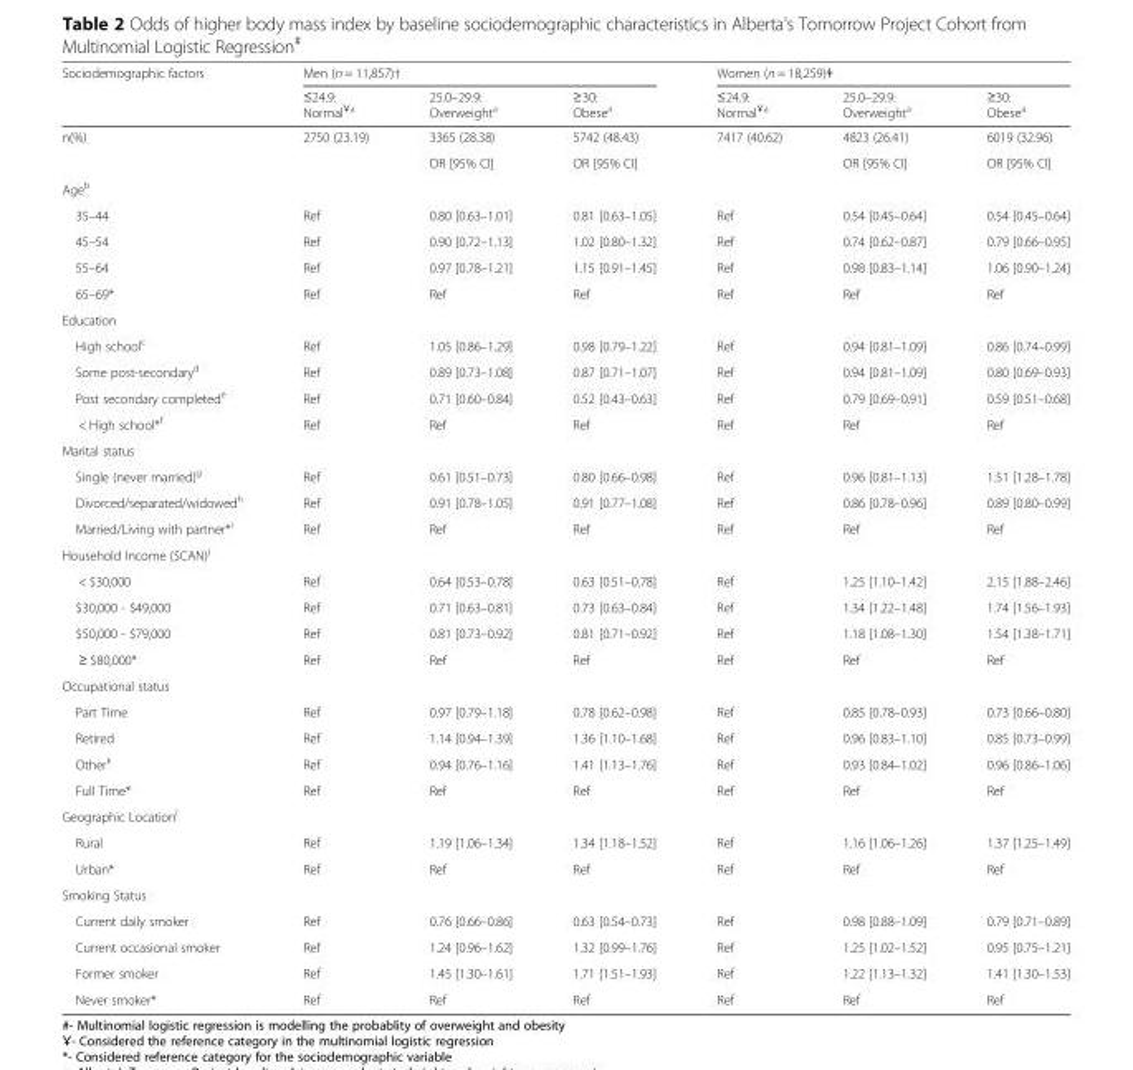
<table><thead><tr><td rowspan="2">Sociodemographic factors</td><td colspan="3">Men (n = 11,857)†</td><td colspan="3">Women (n = 18,259)ǂ</td></tr><tr><td>≤24.9: Normal<sup>Ұa</sup></td><td>25.0–29.9: Overweight<sup>a</sup></td><td>≥30: Obese<sup>a</sup></td><td>≤24.9: Normal<sup>Ұa</sup></td><td>25.0–29.9: Overweight<sup>a</sup></td><td>≥30: Obese<sup>a</sup></td></tr></thead><tbody><tr><td rowspan="2">n(%)</td><td>2750 (23.19)</td><td>3365 (28.38)</td><td>5742 (48.43)</td><td>7417 (40.62)</td><td>4823 (26.41)</td><td>6019 (32.96)</td></tr><tr><td></td><td>OR [95% CI]</td><td>OR [95% CI]</td><td></td><td>OR [95% CI]</td><td>OR [95% CI]</td></tr><tr><td colspan="7">Age<sup>b</sup></td></tr><tr><td>35–44</td><td>Ref</td><td>0.80 [0.63–1.01]</td><td>0.81 [0.63–1.05]</td><td>Ref</td><td>0.54 [0.45–0.64]</td><td>0.54 [0.45–0.64]</td></tr><tr><td>45–54</td><td>Ref</td><td>0.90 [0.72–1.13]</td><td>1.02 [0.80–1.32]</td><td>Ref</td><td>0.74 [0.62–0.87]</td><td>0.79 [0.66–0.95]</td></tr><tr><td>55–64</td><td>Ref</td><td>0.97 [0.78–1.21]</td><td>1.15 [0.91–1.45]</td><td>Ref</td><td>0.98 [0.83–1.14]</td><td>1.06 [0.90–1.24]</td></tr><tr><td>65–69*</td><td>Ref</td><td>Ref</td><td>Ref</td><td>Ref</td><td>Ref</td><td>Ref</td></tr><tr><td colspan="7">Education</td></tr><tr><td>High school<sup>c</sup></td><td>Ref</td><td>1.05 [0.86–1.29]</td><td>0.98 [0.79–1.22]</td><td>Ref</td><td>0.94 [0.81–1.09]</td><td>0.86 [0.74–0.99]</td></tr><tr><td>Some post-secondary<sup>d</sup></td><td>Ref</td><td>0.89 [0.73–1.08]</td><td>0.87 [0.71–1.07]</td><td>Ref</td><td>0.94 [0.81–1.09]</td><td>0.80 [0.69–0.93]</td></tr><tr><td>Post secondary completed<sup>e</sup></td><td>Ref</td><td>0.71 [0.60–0.84]</td><td>0.52 [0.43–0.63]</td><td>Ref</td><td>0.79 [0.69–0.91]</td><td>0.59 [0.51–0.68]</td></tr><tr><td>&lt; High school*<sup>f</sup></td><td>Ref</td><td>Ref</td><td>Ref</td><td>Ref</td><td>Ref</td><td>Ref</td></tr><tr><td colspan="7">Marital status</td></tr><tr><td>Single (never married)<sup>g</sup></td><td>Ref</td><td>0.61 [0.51–0.73]</td><td>0.80 [0.66–0.98]</td><td>Ref</td><td>0.96 [0.81–1.13]</td><td>1.51 [1.28–1.78]</td></tr><tr><td>Divorced/separated/widowed<sup>h</sup></td><td>Ref</td><td>0.91 [0.78–1.05]</td><td>0.91 [0.77–1.08]</td><td>Ref</td><td>0.86 [0.78–0.96]</td><td>0.89 [0.80–0.99]</td></tr><tr><td>Married/Living with partner*<sup>i</sup></td><td>Ref</td><td>Ref</td><td>Ref</td><td>Ref</td><td>Ref</td><td>Ref</td></tr><tr><td colspan="7">Household Income ($CAN)<sup>j</sup></td></tr><tr><td>&lt; $30,000</td><td>Ref</td><td>0.64 [0.53–0.78]</td><td>0.63 [0.51–0.78]</td><td>Ref</td><td>1.25 [1.10–1.42]</td><td>2.15 [1.88–2.46]</td></tr><tr><td>$30,000 - $49,000</td><td>Ref</td><td>0.71 [0.63–0.81]</td><td>0.73 [0.63–0.84]</td><td>Ref</td><td>1.34 [1.22–1.48]</td><td>1.74 [1.56–1.93]</td></tr><tr><td>$50,000 - $79,000</td><td>Ref</td><td>0.81 [0.73–0.92]</td><td>0.81 [0.71–0.92]</td><td>Ref</td><td>1.18 [1.08–1.30]</td><td>1.54 [1.38–1.71]</td></tr><tr><td>≥ $80,000*</td><td>Ref</td><td>Ref</td><td>Ref</td><td>Ref</td><td>Ref</td><td>Ref</td></tr><tr><td colspan="7">Occupational status</td></tr><tr><td>Part Time</td><td>Ref</td><td>0.97 [0.79–1.18]</td><td>0.78 [0.62–0.98]</td><td>Ref</td><td>0.85 [0.78–0.93]</td><td>0.73 [0.66–0.80]</td></tr><tr><td>Retired</td><td>Ref</td><td>1.14 [0.94–1.39]</td><td>1.36 [1.10–1.68]</td><td>Ref</td><td>0.96 [0.83–1.10]</td><td>0.85 [0.73–0.99]</td></tr><tr><td>Other<sup>k</sup></td><td>Ref</td><td>0.94 [0.76–1.16]</td><td>1.41 [1.13–1.76]</td><td>Ref</td><td>0.93 [0.84–1.02]</td><td>0.96 [0.86–1.06]</td></tr><tr><td>Full Time*</td><td>Ref</td><td>Ref</td><td>Ref</td><td>Ref</td><td>Ref</td><td>Ref</td></tr><tr><td colspan="7">Geographic Location<sup>l</sup></td></tr><tr><td>Rural</td><td>Ref</td><td>1.19 [1.06–1.34]</td><td>1.34 [1.18–1.52]</td><td>Ref</td><td>1.16 [1.06–1.26]</td><td>1.37 [1.25–1.49]</td></tr><tr><td>Urban*</td><td>Ref</td><td>Ref</td><td>Ref</td><td>Ref</td><td>Ref</td><td>Ref</td></tr><tr><td colspan="7">Smoking Status</td></tr><tr><td>Current daily smoker</td><td>Ref</td><td>0.76 [0.66–0.86]</td><td>0.63 [0.54–0.73]</td><td>Ref</td><td>0.98 [0.88–1.09]</td><td>0.79 [0.71–0.89]</td></tr><tr><td>Current occasional smoker</td><td>Ref</td><td>1.24 [0.96–1.62]</td><td>1.32 [0.99–1.76]</td><td>Ref</td><td>1.25 [1.02–1.52]</td><td>0.95 [0.75–1.21]</td></tr><tr><td>Former smoker</td><td>Ref</td><td>1.45 [1.30–1.61]</td><td>1.71 [1.51–1.93]</td><td>Ref</td><td>1.22 [1.13–1.32]</td><td>1.41 [1.30–1.53]</td></tr><tr><td>Never smoker*</td><td>Ref</td><td>Ref</td><td>Ref</td><td>Ref</td><td>Ref</td><td>Ref</td></tr></tbody></table>